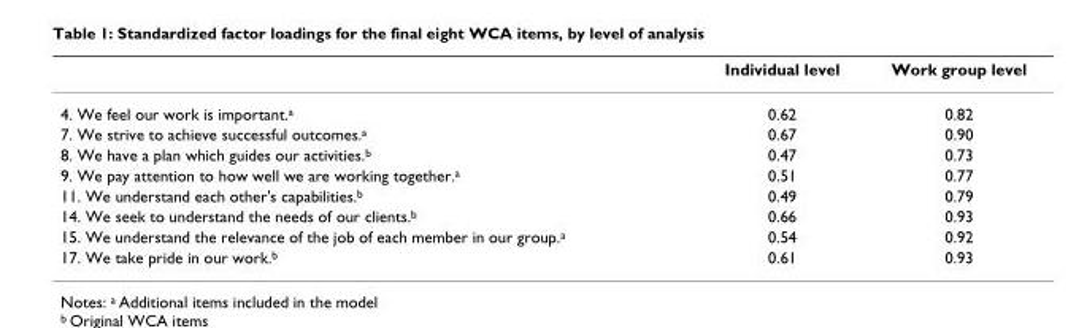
<table><thead><tr><td></td><td>Individual level</td><td>Work group level</td></tr></thead><tbody><tr><td>4. We feel our work is important.<sup>a</sup></td><td>0.62</td><td>0.82</td></tr><tr><td>7. We strive to achieve successful outcomes.<sup>a</sup></td><td>0.67</td><td>0.90</td></tr><tr><td>8. We have a plan which guides our activities.<sup>b</sup></td><td>0.47</td><td>0.73</td></tr><tr><td>9. We pay attention to how well we are working together.<sup>a</sup></td><td>0.51</td><td>0.77</td></tr><tr><td>11. We understand each other&#x27;s capabilities.<sup>b</sup></td><td>0.49</td><td>0.79</td></tr><tr><td>14. We seek to understand the needs of our clients.<sup>b</sup></td><td>0.66</td><td>0.93</td></tr><tr><td>15. We understand the relevance of the job of each member in our group.<sup>a</sup></td><td>0.54</td><td>0.92</td></tr><tr><td>17. We take pride in our work.<sup>b</sup></td><td>0.61</td><td>0.93</td></tr></tbody></table>